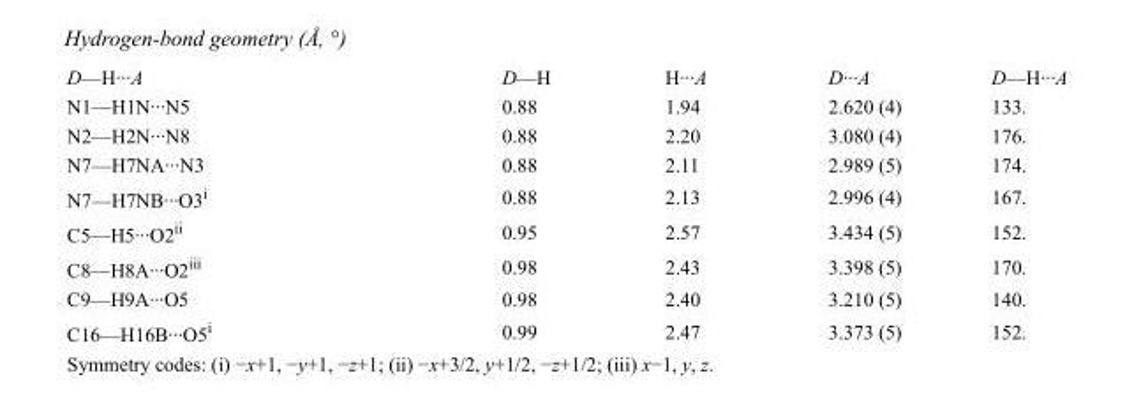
<table><tbody><tr><td>D—H···A</td><td>D—H</td><td>H···A</td><td>D···A</td><td>D—H···A</td></tr><tr><td>N1—H1N···N5</td><td>0.88</td><td>1.94</td><td>2.620 (4)</td><td>133.</td></tr><tr><td>N2—H2N···N8</td><td>0.88</td><td>2.20</td><td>3.080 (4)</td><td>176.</td></tr><tr><td>N7—H7NA···N3</td><td>0.88</td><td>2.11</td><td>2.989 (5)</td><td>174.</td></tr><tr><td>N7—H7NB···O3<sup>i</sup></td><td>0.88</td><td>2.13</td><td>2.996 (4)</td><td>167.</td></tr><tr><td>C5—H5···O2<sup>ii</sup></td><td>0.95</td><td>2.57</td><td>3.434 (5)</td><td>152.</td></tr><tr><td>C8—H8A···O2<sup>iii</sup></td><td>0.98</td><td>2.43</td><td>3.398 (5)</td><td>170.</td></tr><tr><td>C9—H9A···O5</td><td>0.98</td><td>2.40</td><td>3.210 (5)</td><td>140.</td></tr><tr><td>C16—H16B···O5<sup>i</sup></td><td>0.99</td><td>2.47</td><td>3.373 (5)</td><td>152.</td></tr></tbody></table>